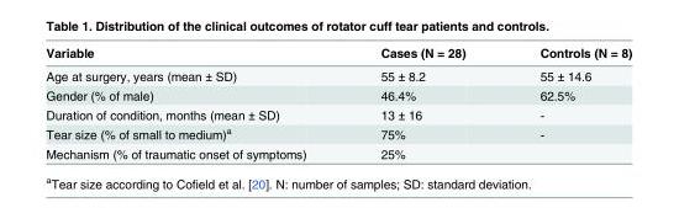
<table><thead><tr><td>Variable</td><td>Cases (N = 28)</td><td>Controls (N = 8)</td></tr></thead><tbody><tr><td>Age at surgery, years (mean ± SD)</td><td>55 ± 8.2</td><td>55 ± 14.6</td></tr><tr><td>Gender (% of male)</td><td>46.4%</td><td>62.5%</td></tr><tr><td>Duration of condition, months (mean ± SD)</td><td>13 ± 16</td><td>-</td></tr><tr><td>Tear size (% of small to medium)<sup>a</sup></td><td>75%</td><td>-</td></tr><tr><td>Mechanism (% of traumatic onset of symptoms)</td><td>25%</td><td></td></tr></tbody></table>